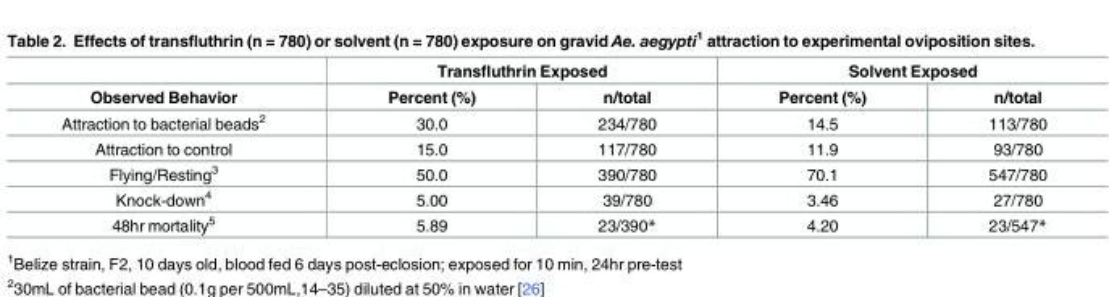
<table><thead><tr><td rowspan="2">Observed Behavior</td><td colspan="2">Transfluthrin Exposed</td><td colspan="2">Solvent Exposed</td></tr><tr><td>Percent (%)</td><td>n/total</td><td>Percent (%)</td><td>n/total</td></tr></thead><tbody><tr><td>Attraction to bacterial beads<sup>2</sup></td><td>30.0</td><td>234/780</td><td>14.5</td><td>113/780</td></tr><tr><td>Attraction to control</td><td>15.0</td><td>117/780</td><td>11.9</td><td>93/780</td></tr><tr><td>Flying/Resting<sup>3</sup></td><td>50.0</td><td>390/780</td><td>70.1</td><td>547/780</td></tr><tr><td>Knock-down<sup>4</sup></td><td>5.00</td><td>39/780</td><td>3.46</td><td>27/780</td></tr><tr><td>48hr mortality<sup>5</sup></td><td>5.89</td><td>23/390*</td><td>4.20</td><td>23/547*</td></tr></tbody></table>